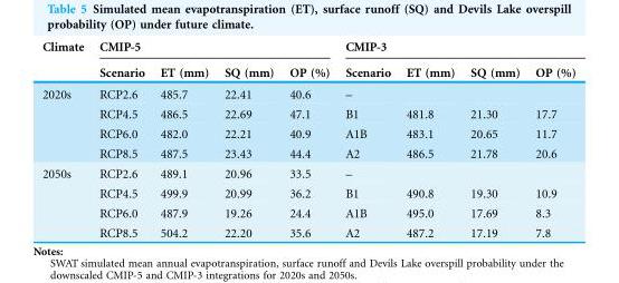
<table><thead><tr><td rowspan="2">Climate</td><td colspan="4">CMIP-5</td><td colspan="4">CMIP-3</td></tr><tr><td>Scenario</td><td>ET (mm)</td><td>SQ (mm)</td><td>OP (%)</td><td>Scenario</td><td>ET (mm)</td><td>SQ (mm)</td><td>OP (%)</td></tr></thead><tbody><tr><td rowspan="4">2020s</td><td>RCP2.6</td><td>485.7</td><td>22.41</td><td>40.6</td><td>–</td><td></td><td></td><td></td></tr><tr><td>RCP4.5</td><td>486.5</td><td>22.69</td><td>47.1</td><td>B1</td><td>481.8</td><td>21.30</td><td>17.7</td></tr><tr><td>RCP6.0</td><td>482.0</td><td>22.21</td><td>40.9</td><td>A1B</td><td>483.1</td><td>20.65</td><td>11.7</td></tr><tr><td>RCP8.5</td><td>487.5</td><td>23.43</td><td>44.4</td><td>A2</td><td>486.5</td><td>21.78</td><td>20.6</td></tr><tr><td rowspan="4">2050s</td><td>RCP2.6</td><td>489.1</td><td>20.96</td><td>33.5</td><td>–</td><td></td><td></td><td></td></tr><tr><td>RCP4.5</td><td>499.9</td><td>20.99</td><td>36.2</td><td>B1</td><td>490.8</td><td>19.30</td><td>10.9</td></tr><tr><td>RCP6.0</td><td>487.9</td><td>19.26</td><td>24.4</td><td>A1B</td><td>495.0</td><td>17.69</td><td>8.3</td></tr><tr><td>RCP8.5</td><td>504.2</td><td>22.20</td><td>35.6</td><td>A2</td><td>487.2</td><td>17.19</td><td>7.8</td></tr></tbody></table>